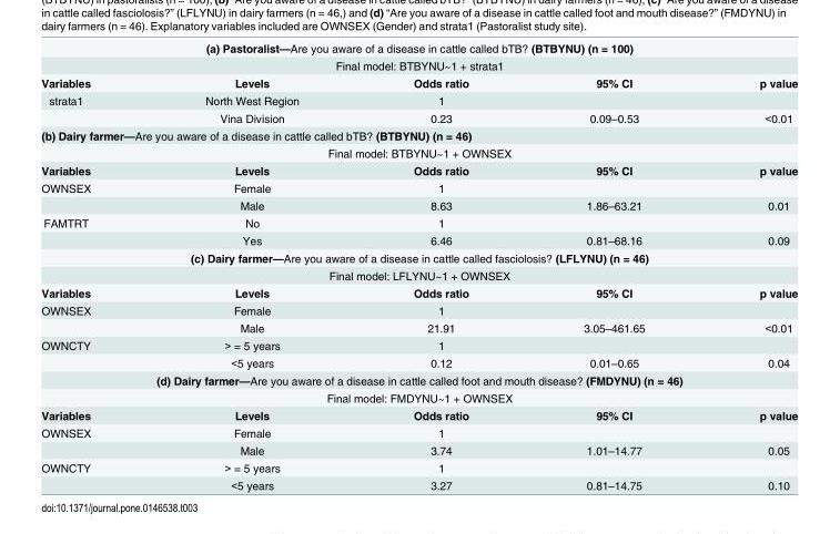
<table><tbody><tr><td colspan="5">(a) Pastoralist—Are you aware of a disease in cattle called bTB? (BTBYNU) (n = 100)</td></tr><tr><td colspan="5">Final model: BTBYNU~1 + strata1</td></tr><tr><td>Variables</td><td>Levels</td><td>Odds ratio</td><td>95% CI</td><td>p value</td></tr><tr><td rowspan="2">strata1</td><td>North West Region</td><td>1</td><td></td><td></td></tr><tr><td>Vina Division</td><td>0.23</td><td>0.09–0.53</td><td>&lt;0.01</td></tr><tr><td colspan="5">(b) Dairy farmer—Are you aware of a disease in cattle called bTB? (BTBYNU) (n = 46)</td></tr><tr><td colspan="5">Final model: BTBYNU~1 + OWNSEX</td></tr><tr><td>Variables</td><td>Levels</td><td>Odds ratio</td><td>95% CI</td><td>p value</td></tr><tr><td rowspan="2">OWNSEX</td><td>Female</td><td>1</td><td></td><td></td></tr><tr><td>Male</td><td>8.63</td><td>1.86–63.21</td><td>0.01</td></tr><tr><td rowspan="2">FAMTRT</td><td>No</td><td>1</td><td></td><td></td></tr><tr><td>Yes</td><td>6.46</td><td>0.81–68.16</td><td>0.09</td></tr><tr><td colspan="5">(c) Dairy farmer—Are you aware of a disease in cattle called fasciolosis? (LFLYNU) (n = 46)</td></tr><tr><td colspan="5">Final model: LFLYNU~1 + OWNSEX</td></tr><tr><td>Variables</td><td>Levels</td><td>Odds ratio</td><td>95% CI</td><td>p value</td></tr><tr><td rowspan="2">OWNSEX</td><td>Female</td><td>1</td><td></td><td></td></tr><tr><td>Male</td><td>21.91</td><td>3.05–461.65</td><td>&lt;0.01</td></tr><tr><td rowspan="2">OWNCTY</td><td>&gt; = 5 years</td><td>1</td><td></td><td></td></tr><tr><td>&lt;5 years</td><td>0.12</td><td>0.01–0.65</td><td>0.04</td></tr><tr><td colspan="5">(d) Dairy farmer—Are you aware of a disease in cattle called foot and mouth disease? (FMDYNU) (n = 46)</td></tr><tr><td colspan="5">Final model: FMDYNU~1 + OWNSEX</td></tr><tr><td>Variables</td><td>Levels</td><td>Odds ratio</td><td>95% CI</td><td>p value</td></tr><tr><td rowspan="2">OWNSEX</td><td>Female</td><td>1</td><td></td><td></td></tr><tr><td>Male</td><td>3.74</td><td>1.01–14.77</td><td>0.05</td></tr><tr><td rowspan="2">OWNCTY</td><td>&gt; = 5 years</td><td>1</td><td></td><td></td></tr><tr><td>&lt;5 years</td><td>3.27</td><td>0.81–14.75</td><td>0.10</td></tr></tbody></table>